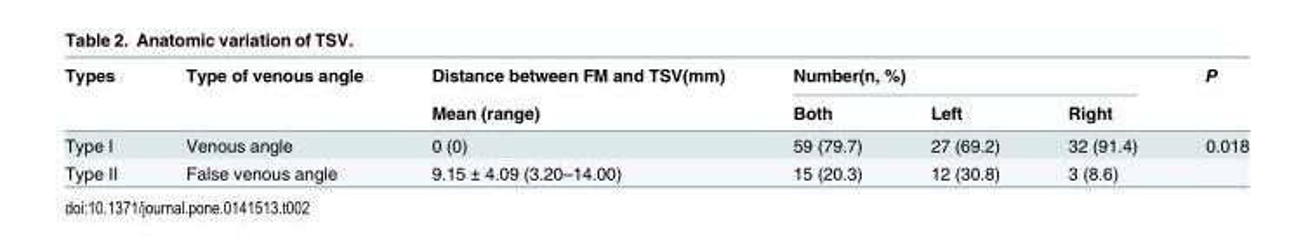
<table><thead><tr><td rowspan="2">Types</td><td rowspan="2">Type of venous angle</td><td rowspan="2">Distance between FM and TSV(mm) Mean (range)</td><td colspan="3">Number(n, %)</td><td rowspan="2">P</td></tr><tr><td>Both</td><td>Left</td><td>Right</td></tr></thead><tbody><tr><td>Type I</td><td>Venous angle</td><td>0 (0)</td><td>59 (79.7)</td><td>27 (69.2)</td><td>32 (91.4)</td><td>0.018</td></tr><tr><td>Type II</td><td>False venous angle</td><td>9.15 ± 4.09 (3.20–14.00)</td><td>15 (20.3)</td><td>12 (30.8)</td><td>3 (8.6)</td><td></td></tr></tbody></table>